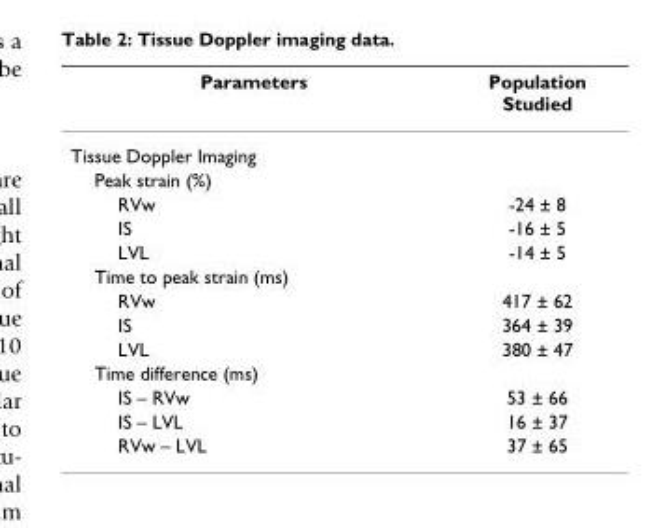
<table><thead><tr><td>Parameters</td><td>Population Studied</td></tr></thead><tbody><tr><td colspan="2">Tissue Doppler Imaging</td></tr><tr><td colspan="2">Peak strain (%)</td></tr><tr><td>RVw</td><td>-24 ± 8</td></tr><tr><td>IS</td><td>-16 ± 5</td></tr><tr><td>LVL</td><td>-14 ± 5</td></tr><tr><td colspan="2">Time to peak strain (ms)</td></tr><tr><td>RVw</td><td>417 ± 62</td></tr><tr><td>IS</td><td>364 ± 39</td></tr><tr><td>LVL</td><td>380 ± 47</td></tr><tr><td colspan="2">Time difference (ms)</td></tr><tr><td>IS – RVw</td><td>53 ± 66</td></tr><tr><td>IS – LVL</td><td>16 ± 37</td></tr><tr><td>RVw – LVL</td><td>37 ± 65</td></tr></tbody></table>